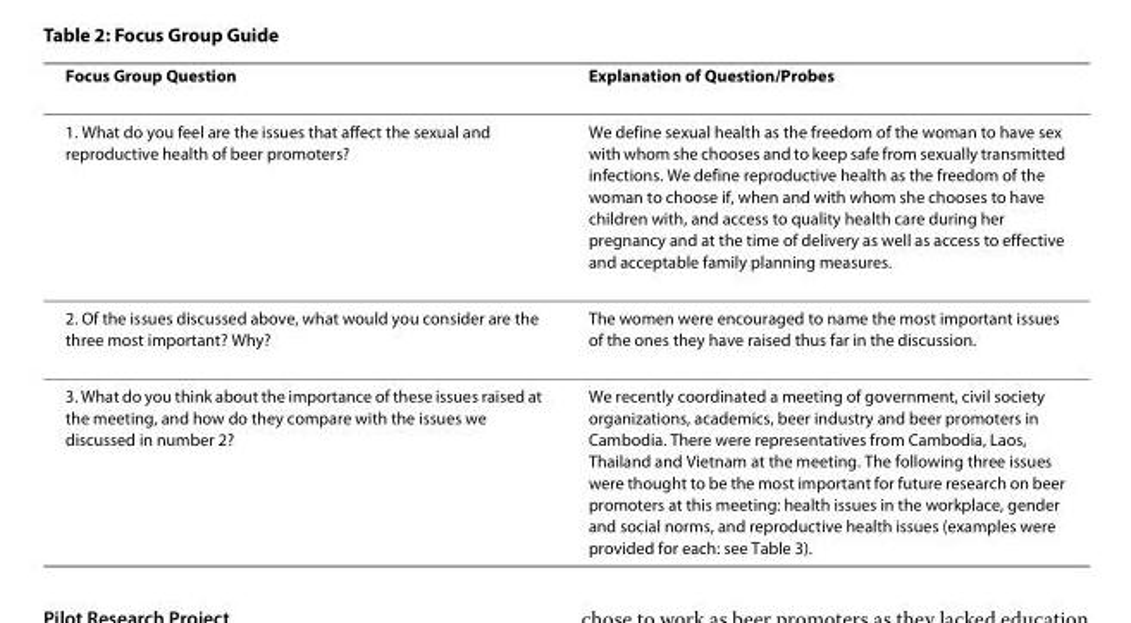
<table><thead><tr><td>Focus Group Question</td><td>Explanation of Question/Probes</td></tr></thead><tbody><tr><td>1. What do you feel are the issues that affect the sexual and reproductive health of beer promoters?</td><td>We define sexual health as the freedom of the woman to have sex with whom she chooses and to keep safe from sexually transmitted infections. We define reproductive health as the freedom of the woman to choose if, when and with whom she chooses to have children with, and access to quality health care during her pregnancy and at the time of delivery as well as access to effective and acceptable family planning measures.</td></tr><tr><td>2. Of the issues discussed above, what would you consider are the three most important? Why?</td><td>The women were encouraged to name the most important issues of the ones they have raised thus far in the discussion.</td></tr><tr><td>3. What do you think about the importance of these issues raised at the meeting, and how do they compare with the issues we discussed in number 2?</td><td>We recently coordinated a meeting of government, civil society organizations, academics, beer industry and beer promoters in Cambodia. There were representatives from Cambodia, Laos, Thailand and Vietnam at the meeting. The following three issues were thought to be the most important for future research on beer promoters at this meeting: health issues in the workplace, gender and social norms, and reproductive health issues (examples were provided for each: see Table 3).</td></tr></tbody></table>